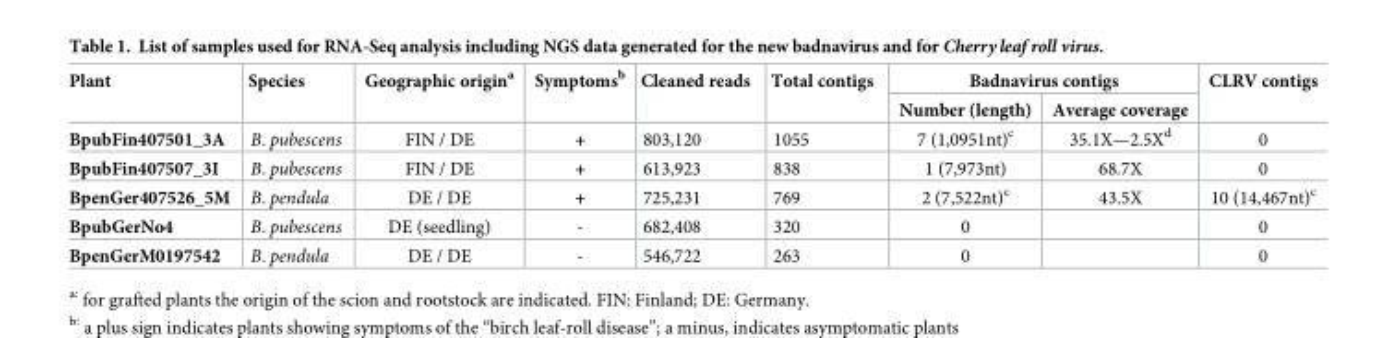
<table><thead><tr><td rowspan="2">Plant</td><td rowspan="2">Species</td><td rowspan="2">Geographic origin<sup>a</sup></td><td rowspan="2">Symptoms<sup>b</sup></td><td rowspan="2">Cleaned reads</td><td rowspan="2">Total contigs</td><td colspan="2">Badnavirus contigs</td><td rowspan="2">CLRV contigs</td></tr><tr><td>Number (length)</td><td>Average coverage</td></tr></thead><tbody><tr><td>BpubFin407501_3A</td><td>B. pubescens</td><td>FIN / DE</td><td>+</td><td>803,120</td><td>1055</td><td>7 (1,0951nt)<sup>c</sup></td><td>35.1X—2.5X<sup>d</sup></td><td>0</td></tr><tr><td>BpubFin407507_3I</td><td>B. pubescens</td><td>FIN / DE</td><td>+</td><td>613,923</td><td>838</td><td>1 (7,973nt)</td><td>68.7X</td><td>0</td></tr><tr><td>BpenGer407526_5M</td><td>B. pendula</td><td>DE / DE</td><td>+</td><td>725,231</td><td>769</td><td>2 (7,522nt)<sup>c</sup></td><td>43.5X</td><td>10 (14,467nt)<sup>c</sup></td></tr><tr><td>BpubGerNo4</td><td>B. pubescens</td><td>DE (seedling)</td><td>-</td><td>682,408</td><td>320</td><td>0</td><td></td><td>0</td></tr><tr><td>BpenGerM0197542</td><td>B. pendula</td><td>DE / DE</td><td>-</td><td>546,722</td><td>263</td><td>0</td><td></td><td>0</td></tr></tbody></table>